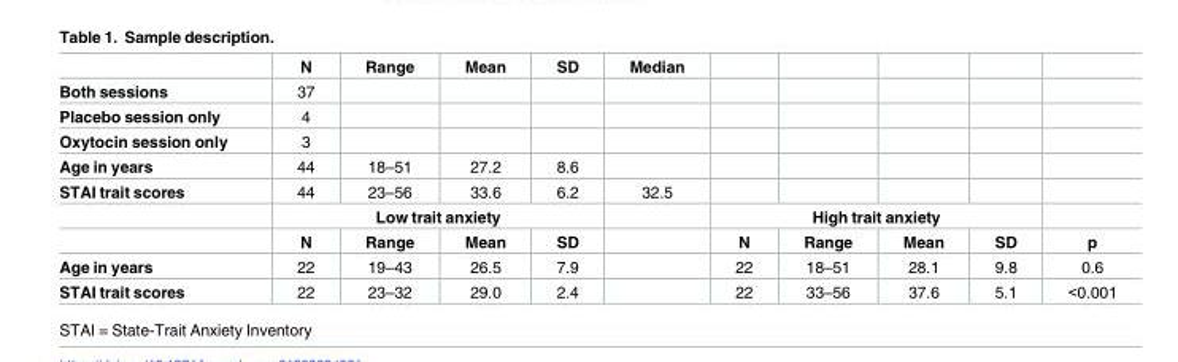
<table><thead><tr><td></td><td>N</td><td>Range</td><td>Mean</td><td>SD</td><td>Median</td><td></td><td></td><td></td><td></td><td></td></tr></thead><tbody><tr><td>Both sessions</td><td>37</td><td></td><td></td><td></td><td></td><td></td><td></td><td></td><td></td><td></td></tr><tr><td>Placebo session only</td><td>4</td><td></td><td></td><td></td><td></td><td></td><td></td><td></td><td></td><td></td></tr><tr><td>Oxytocin session only</td><td>3</td><td></td><td></td><td></td><td></td><td></td><td></td><td></td><td></td><td></td></tr><tr><td>Age in years</td><td>44</td><td>18–51</td><td>27.2</td><td>8.6</td><td></td><td></td><td></td><td></td><td></td><td></td></tr><tr><td rowspan="3">STAI trait scores</td><td>44</td><td>23–56</td><td>33.6</td><td>6.2</td><td>32.5</td><td></td><td></td><td></td><td></td><td></td></tr><tr><td colspan="4">Low trait anxiety</td><td></td><td colspan="4">High trait anxiety</td><td></td></tr><tr><td>N</td><td>Range</td><td>Mean</td><td>SD</td><td></td><td>N</td><td>Range</td><td>Mean</td><td>SD</td><td>p</td></tr><tr><td>Age in years</td><td>22</td><td>19–43</td><td>26.5</td><td>7.9</td><td></td><td>22</td><td>18–51</td><td>28.1</td><td>9.8</td><td>0.6</td></tr><tr><td>STAI trait scores</td><td>22</td><td>23–32</td><td>29.0</td><td>2.4</td><td></td><td>22</td><td>33–56</td><td>37.6</td><td>5.1</td><td>&lt;0.001</td></tr></tbody></table>